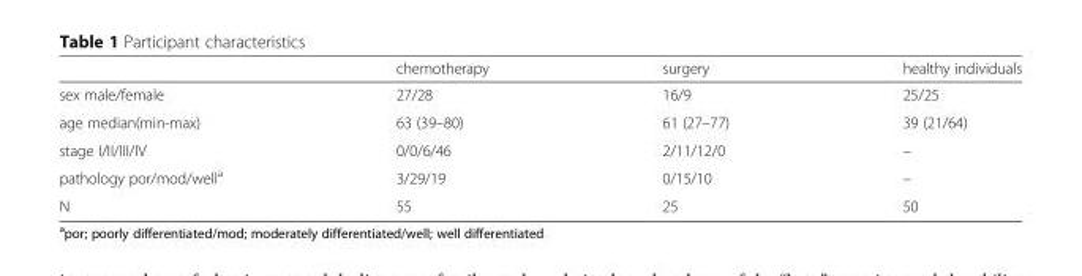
<table><thead><tr><td></td><td>chemotherapy</td><td>surgery</td><td>healthy individuals</td></tr></thead><tbody><tr><td>sex male/female</td><td>27/28</td><td>16/9</td><td>25/25</td></tr><tr><td>age median(min-max)</td><td>63 (39–80)</td><td>61 (27–77)</td><td>39 (21/64)</td></tr><tr><td>stage I/II/III/IV</td><td>0/0/6/46</td><td>2/11/12/0</td><td>–</td></tr><tr><td>pathology por/mod/well<sup>a</sup></td><td>3/29/19</td><td>0/15/10</td><td>–</td></tr><tr><td>N</td><td>55</td><td>25</td><td>50</td></tr></tbody></table>